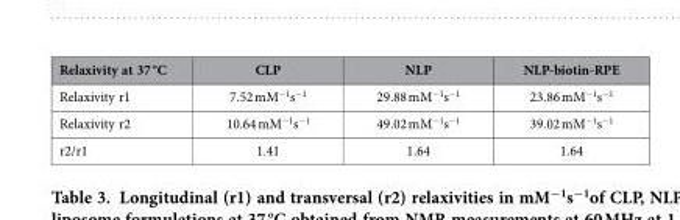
<table><thead><tr><td>Relaxivity at 37 °C</td><td>CLP</td><td>NLP</td><td>NLP-biotin-RPE</td></tr></thead><tbody><tr><td>Relaxivity r1</td><td>7.52 mM<sup>−1</sup>s<sup>−1</sup></td><td>29.88 mM<sup>−1</sup>s<sup>−1</sup></td><td>23.86 mM<sup>−1</sup>s<sup>−1</sup></td></tr><tr><td>Relaxivity r2</td><td>10.64 mM<sup>−1</sup>s<sup>−1</sup></td><td>49.02 mM<sup>−1</sup>s<sup>−1</sup></td><td>39.02 mM<sup>−1</sup>s<sup>−1</sup></td></tr><tr><td>r2/r1</td><td>1.41</td><td>1.64</td><td>1.64</td></tr></tbody></table>